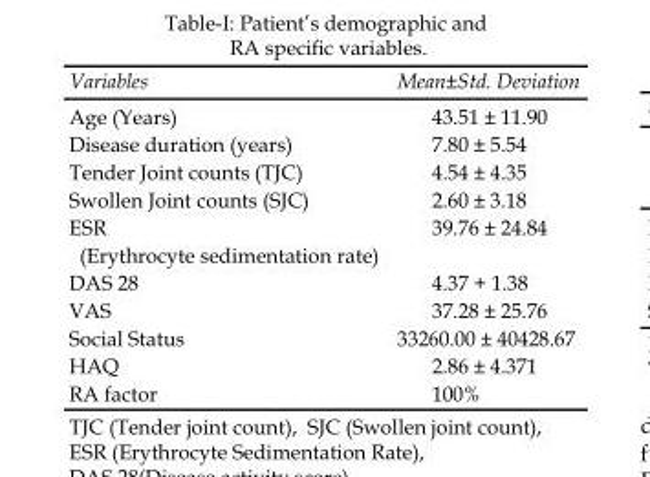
<table><thead><tr><td>Variables</td><td>Mean±Std. Deviation</td></tr></thead><tbody><tr><td>Age (Years)</td><td>43.51 ± 11.90</td></tr><tr><td>Disease duration (years)</td><td>7.80 ± 5.54</td></tr><tr><td>Tender Joint counts (TJC)</td><td>4.54 ± 4.35</td></tr><tr><td>Swollen Joint counts (SJC)</td><td>2.60 ± 3.18</td></tr><tr><td>ESR (Erythrocyte sedimentation rate)</td><td>39.76 ± 24.84</td></tr><tr><td>DAS 28</td><td>4.37 + 1.38</td></tr><tr><td>VAS</td><td>37.28 ± 25.76</td></tr><tr><td>Social Status</td><td>33260.00 ± 40428.67</td></tr><tr><td>HAQ</td><td>2.86 ± 4.371</td></tr><tr><td>RA factor</td><td>100%</td></tr></tbody></table>